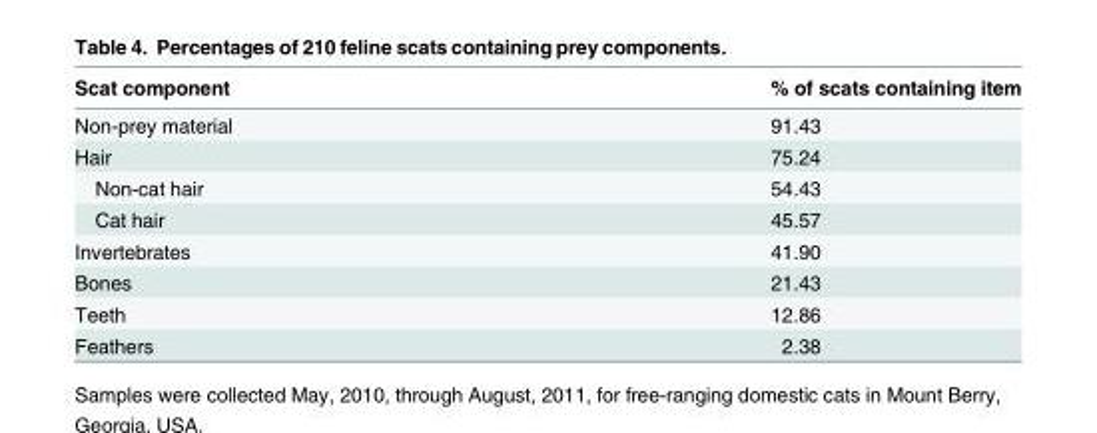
<table><thead><tr><td>Scat component</td><td>% of scats containing item</td></tr></thead><tbody><tr><td>Non-prey material</td><td>91.43</td></tr><tr><td>Hair</td><td>75.24</td></tr><tr><td>Non-cat hair</td><td>54.43</td></tr><tr><td>Cat hair</td><td>45.57</td></tr><tr><td>Invertebrates</td><td>41.90</td></tr><tr><td>Bones</td><td>21.43</td></tr><tr><td>Teeth</td><td>12.86</td></tr><tr><td>Feathers</td><td>2.38</td></tr></tbody></table>